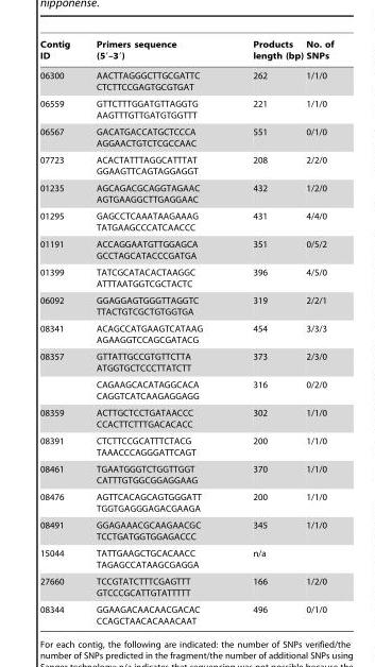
<table><thead><tr><td>Contig ID</td><td>Primers sequence (5′–3′)</td><td>Products length (bp)</td><td>No. of SNPs</td></tr></thead><tbody><tr><td>06300</td><td>AACTTAGGGCTTGCGATTC CTCTTCCGAGTGCGTGAT</td><td>262</td><td>1/1/0</td></tr><tr><td>06559</td><td>GTTCTTTGGATGTTAGGTG AAGTTTGTTGATGTGGTTT</td><td>221</td><td>1/1/0</td></tr><tr><td>06567</td><td>GACATGACCATGCTCCCA AGGAACTGTCTCGCCAAC</td><td>551</td><td>0/1/0</td></tr><tr><td>07723</td><td>ACACTATTTAGGCATTTAT GGAAGTTCAGTAGGAGGT</td><td>208</td><td>2/2/0</td></tr><tr><td>01235</td><td>AGCAGACGCAGGTAGAAC AGTGAAGGCTTGAGGAAC</td><td>432</td><td>1/2/0</td></tr><tr><td>01295</td><td>GAGCCTCAAATAAGAAAG TATGAAGCCCATCAACCC</td><td>431</td><td>4/4/0</td></tr><tr><td>01191</td><td>ACCAGGAATGTTGGAGCA GCCTAGCATACCCGATGA</td><td>351</td><td>0/5/2</td></tr><tr><td>01399</td><td>TATCGCATACACTAAGGC ATTTAATGGTCGCTACTC</td><td>396</td><td>4/5/0</td></tr><tr><td>06092</td><td>GGAGGAGTGGGTTAGGTC TTACTGTCGCTGTGGTGA</td><td>319</td><td>2/2/1</td></tr><tr><td>08341</td><td>ACAGCCATGAAGTCATAAG AGAAGGTCCAGCGATACG</td><td>454</td><td>3/3/3</td></tr><tr><td rowspan="2">08357</td><td>GTTATTGCCGTGTTCTTA ATGGTGCTCCCTTATCTT</td><td>373</td><td>2/3/0</td></tr><tr><td>CAGAAGCACATAGGCACA CAGGTCATCAAGAGGAGG</td><td>316</td><td>0/2/0</td></tr><tr><td>08359</td><td>ACTTGCTCCTGATAACCC CCACTTCTTTGACACACC</td><td>302</td><td>1/1/0</td></tr><tr><td>08391</td><td>CTCTTCCGCATTTCTACG TAAACCCAGGGATTCAGT</td><td>200</td><td>1/1/0</td></tr><tr><td>08461</td><td>TGAATGGGTCTGGTTGGT CATTTGTGGCGGAGGAAG</td><td>370</td><td>1/1/0</td></tr><tr><td>08476</td><td>AGTTCACAGCAGTGGGATT TGGTGAGGGAGACGAAGA</td><td>200</td><td>1/1/0</td></tr><tr><td>08491</td><td>GGAGAAACGCAAGAACGC TCCTGATGGTGGAGACCC</td><td>345</td><td>1/1/0</td></tr><tr><td>15044</td><td>TATTGAAGCTGCACAACC TAGAGCCATAAGCGAGGA</td><td>n/a</td><td></td></tr><tr><td>27660</td><td>TCCGTATCTTTCGAGTTT GTCCCGCATTGTATTTTT</td><td>166</td><td>1/2/0</td></tr><tr><td>08344</td><td>GGAAGACAACAACGACAC CCAGCTAACACAAACAAT</td><td>496</td><td>0/1/0</td></tr></tbody></table>